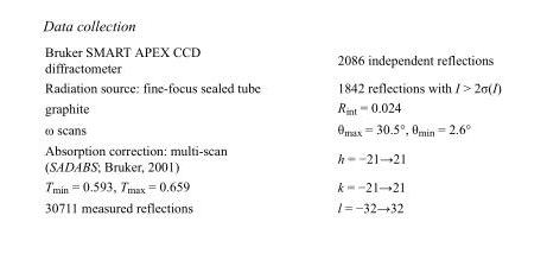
<table><tbody><tr><td>Bruker SMART APEX CCD diffractometer</td><td>2086 independent reflections</td></tr><tr><td>Radiation source: fine-focus sealed tube</td><td>1842 reflections with I &gt; 2σ(I)</td></tr><tr><td>graphite</td><td>R<sub>int</sub> = 0.024</td></tr><tr><td>ω scans</td><td>θ<sub>max</sub> = 30.5°, θ<sub>min</sub> = 2.6°</td></tr><tr><td>Absorption correction: multi-scan (SADABS; Bruker, 2001)</td><td>h = −21→21</td></tr><tr><td>T<sub>min</sub> = 0.593, T<sub>max</sub> = 0.659</td><td>k = −21→21</td></tr><tr><td>30711 measured reflections</td><td>l = −32→32</td></tr></tbody></table>